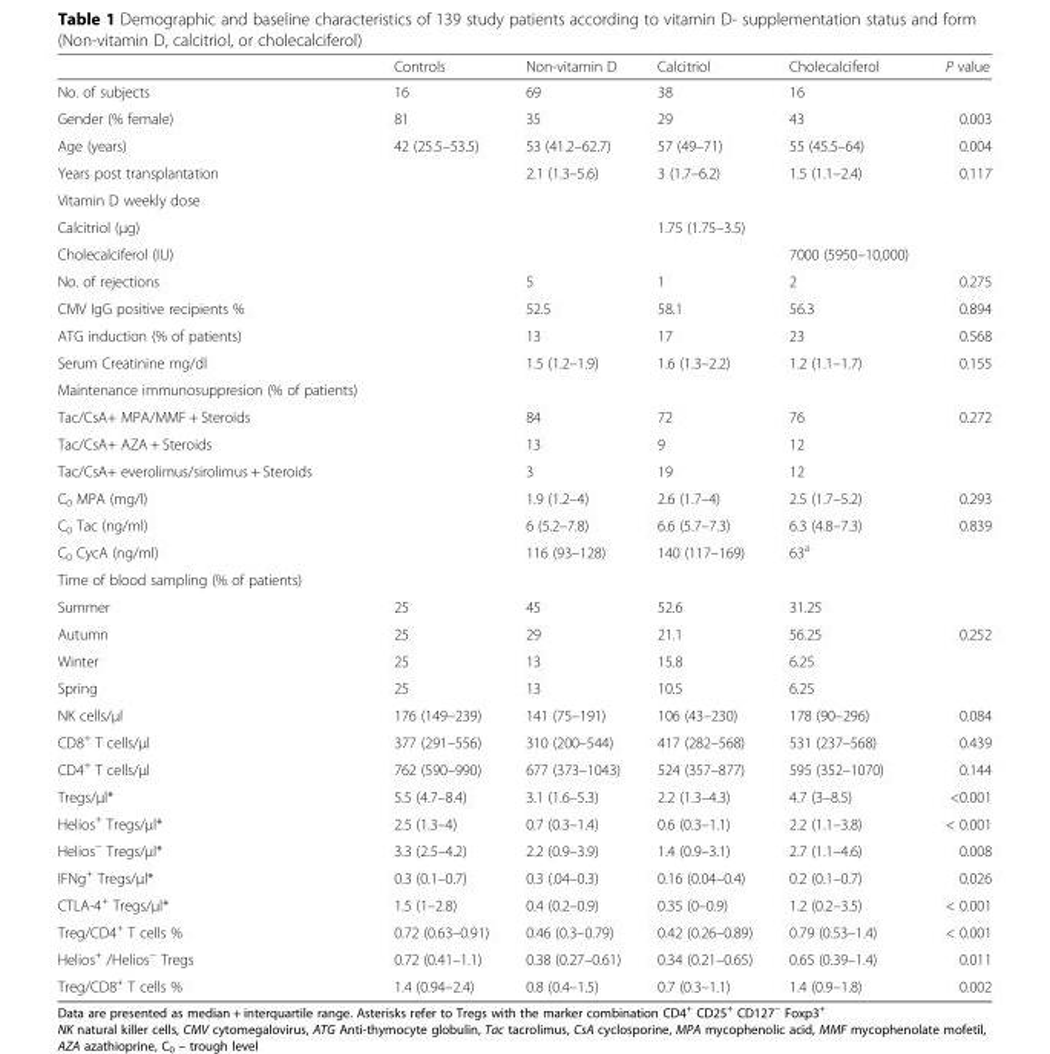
<table><thead><tr><td></td><td>Controls</td><td>Non-vitamin D</td><td>Calcitriol</td><td>Cholecalciferol</td><td>P value</td></tr></thead><tbody><tr><td>No. of subjects</td><td>16</td><td>69</td><td>38</td><td>16</td><td></td></tr><tr><td>Gender (% female)</td><td>81</td><td>35</td><td>29</td><td>43</td><td>0.003</td></tr><tr><td>Age (years)</td><td>42 (25.5–53.5)</td><td>53 (41.2–62.7)</td><td>57 (49–71)</td><td>55 (45.5–64)</td><td>0.004</td></tr><tr><td>Years post transplantation</td><td></td><td>2.1 (1.3–5.6)</td><td>3 (1.7–6.2)</td><td>1.5 (1.1–2.4)</td><td>0.117</td></tr><tr><td colspan="6">Vitamin D weekly dose</td></tr><tr><td>Calcitriol (μg)</td><td></td><td></td><td>1.75 (1.75–3.5)</td><td></td><td></td></tr><tr><td>Cholecalciferol (IU)</td><td></td><td></td><td></td><td>7000 (5950–10,000)</td><td></td></tr><tr><td>No. of rejections</td><td></td><td>5</td><td>1</td><td>2</td><td>0.275</td></tr><tr><td>CMV IgG positive recipients %</td><td></td><td>52.5</td><td>58.1</td><td>56.3</td><td>0.894</td></tr><tr><td>ATG induction (% of patients)</td><td></td><td>13</td><td>17</td><td>23</td><td>0.568</td></tr><tr><td>Serum Creatinine mg/dl</td><td></td><td>1.5 (1.2–1.9)</td><td>1.6 (1.3–2.2)</td><td>1.2 (1.1–1.7)</td><td>0.155</td></tr><tr><td colspan="6">Maintenance immunosuppresion (% of patients)</td></tr><tr><td>Tac/CsA+ MPA/MMF + Steroids</td><td></td><td>84</td><td>72</td><td>76</td><td>0.272</td></tr><tr><td>Tac/CsA+ AZA + Steroids</td><td></td><td>13</td><td>9</td><td>12</td><td></td></tr><tr><td>Tac/CsA+ everolimus/sirolimus + Steroids</td><td></td><td>3</td><td>19</td><td>12</td><td></td></tr><tr><td>C<sub>0</sub> MPA (mg/l)</td><td></td><td>1.9 (1.2–4)</td><td>2.6 (1.7–4)</td><td>2.5 (1.7–5.2)</td><td>0.293</td></tr><tr><td>C<sub>0</sub> Tac (ng/ml)</td><td></td><td>6 (5.2–7.8)</td><td>6.6 (5.7–7.3)</td><td>6.3 (4.8–7.3)</td><td>0.839</td></tr><tr><td>C<sub>0</sub> CycA (ng/ml)</td><td></td><td>116 (93–128)</td><td>140 (117–169)</td><td>63<sup>a</sup></td><td></td></tr><tr><td colspan="6">Time of blood sampling (% of patients)</td></tr><tr><td>Summer</td><td>25</td><td>45</td><td>52.6</td><td>31.25</td><td></td></tr><tr><td>Autumn</td><td>25</td><td>29</td><td>21.1</td><td>56.25</td><td>0.252</td></tr><tr><td>Winter</td><td>25</td><td>13</td><td>15.8</td><td>6.25</td><td></td></tr><tr><td>Spring</td><td>25</td><td>13</td><td>10.5</td><td>6.25</td><td></td></tr><tr><td>NK cells/μl</td><td>176 (149–239)</td><td>141 (75–191)</td><td>106 (43–230)</td><td>178 (90–296)</td><td>0.084</td></tr><tr><td>CD8<sup>+</sup> T cells/μl</td><td>377 (291–556)</td><td>310 (200–544)</td><td>417 (282–568)</td><td>531 (237–568)</td><td>0.439</td></tr><tr><td>CD4<sup>+</sup> T cells/μl</td><td>762 (590–990)</td><td>677 (373–1043)</td><td>524 (357–877)</td><td>595 (352–1070)</td><td>0.144</td></tr><tr><td>Tregs/μl*</td><td>5.5 (4.7–8.4)</td><td>3.1 (1.6–5.3)</td><td>2.2 (1.3–4.3)</td><td>4.7 (3–8.5)</td><td>&lt;0.001</td></tr><tr><td>Helios<sup>+</sup> Tregs/μl*</td><td>2.5 (1.3–4)</td><td>0.7 (0.3–1.4)</td><td>0.6 (0.3–1.1)</td><td>2.2 (1.1–3.8)</td><td>&lt; 0.001</td></tr><tr><td>Helios<sup>−</sup> Tregs/μl*</td><td>3.3 (2.5–4.2)</td><td>2.2 (0.9–3.9)</td><td>1.4 (0.9–3.1)</td><td>2.7 (1.1–4.6)</td><td>0.008</td></tr><tr><td>IFNg<sup>+</sup> Tregs/μl*</td><td>0.3 (0.1–0.7)</td><td>0.3 (.04–0.3)</td><td>0.16 (0.04–0.4)</td><td>0.2 (0.1–0.7)</td><td>0.026</td></tr><tr><td>CTLA-4<sup>+</sup> Tregs/μl*</td><td>1.5 (1–2.8)</td><td>0.4 (0.2–0.9)</td><td>0.35 (0–0.9)</td><td>1.2 (0.2–3.5)</td><td>&lt; 0.001</td></tr><tr><td>Treg/CD4<sup>+</sup> T cells %</td><td>0.72 (0.63–0.91)</td><td>0.46 (0.3–0.79)</td><td>0.42 (0.26–0.89)</td><td>0.79 (0.53–1.4)</td><td>&lt; 0.001</td></tr><tr><td>Helios<sup>+</sup> /Helios<sup>−</sup> Tregs</td><td>0.72 (0.41–1.1)</td><td>0.38 (0.27–0.61)</td><td>0.34 (0.21–0.65)</td><td>0.65 (0.39–1.4)</td><td>0.011</td></tr><tr><td>Treg/CD8<sup>+</sup> T cells %</td><td>1.4 (0.94–2.4)</td><td>0.8 (0.4–1.5)</td><td>0.7 (0.3–1.1)</td><td>1.4 (0.9–1.8)</td><td>0.002</td></tr></tbody></table>